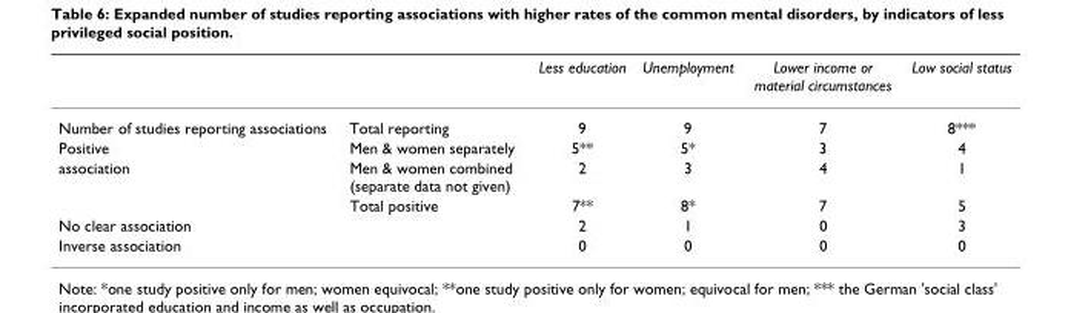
<table><thead><tr><td></td><td></td><td>Less education</td><td>Unemployment</td><td>Lower income or material circumstances</td><td>Low social status</td></tr></thead><tbody><tr><td>Number of studies reporting associations</td><td>Total reporting</td><td>9</td><td>9</td><td>7</td><td>8***</td></tr><tr><td>Positive</td><td>Men &amp; women separately</td><td>5**</td><td>5*</td><td>3</td><td>4</td></tr><tr><td rowspan="2">association</td><td>Men &amp; women combined (separate data not given)</td><td>2</td><td>3</td><td>4</td><td>1</td></tr><tr><td>Total positive</td><td>7**</td><td>8*</td><td>7</td><td>5</td></tr><tr><td>No clear association</td><td></td><td>2</td><td>1</td><td>0</td><td>3</td></tr><tr><td>Inverse association</td><td></td><td>0</td><td>0</td><td>0</td><td>0</td></tr></tbody></table>